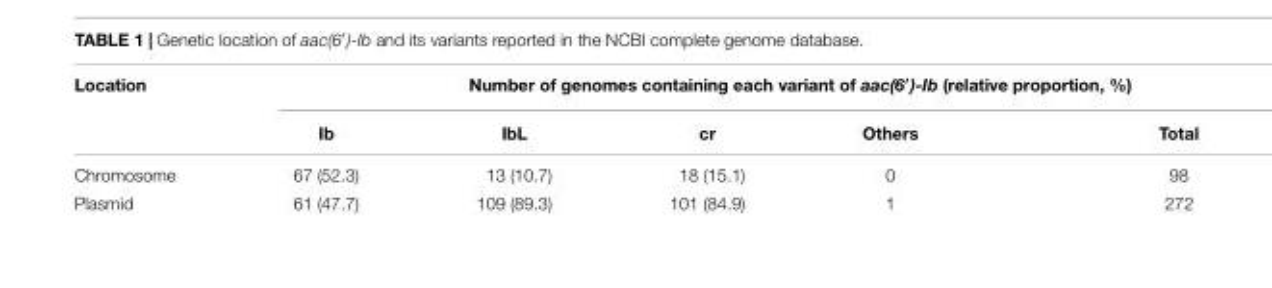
<table><thead><tr><td rowspan="2">Location</td><td colspan="5">Number of genomes containing each variant of aac(6′)-Ib (relative proportion, %)</td></tr><tr><td>Ib</td><td>IbL</td><td>cr</td><td>Others</td><td>Total</td></tr></thead><tbody><tr><td>Chromosome</td><td>67 (52.3)</td><td>13 (10.7)</td><td>18 (15.1)</td><td>0</td><td>98</td></tr><tr><td>Plasmid</td><td>61 (47.7)</td><td>109 (89.3)</td><td>101 (84.9)</td><td>1</td><td>272</td></tr></tbody></table>